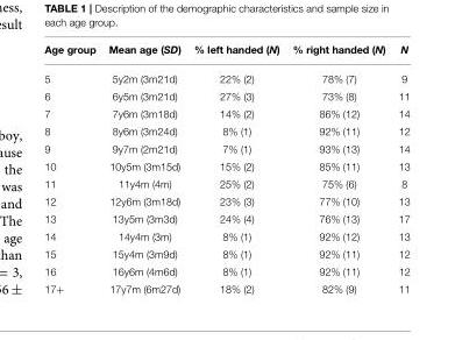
<table><thead><tr><td>Age group</td><td>Mean age (SD)</td><td>% left handed (N)</td><td>% right handed (N)</td><td>N</td></tr></thead><tbody><tr><td>5</td><td>5y2m (3m21d)</td><td>22% (2)</td><td>78% (7)</td><td>9</td></tr><tr><td>6</td><td>6y5m (3m21d)</td><td>27% (3)</td><td>73% (8)</td><td>11</td></tr><tr><td>7</td><td>7y6m (3m18d)</td><td>14% (2)</td><td>86% (12)</td><td>14</td></tr><tr><td>8</td><td>8y6m (3m24d)</td><td>8% (1)</td><td>92% (11)</td><td>12</td></tr><tr><td>9</td><td>9y7m (2m21d)</td><td>7% (1)</td><td>93% (13)</td><td>14</td></tr><tr><td>10</td><td>10y5m (3m15d)</td><td>15% (2)</td><td>85% (11)</td><td>13</td></tr><tr><td>11</td><td>11y4m (4m)</td><td>25% (2)</td><td>75% (6)</td><td>8</td></tr><tr><td>12</td><td>12y6m (3m18d)</td><td>23% (3)</td><td>77% (10)</td><td>13</td></tr><tr><td>13</td><td>13y5m (3m3d)</td><td>24% (4)</td><td>76% (13)</td><td>17</td></tr><tr><td>14</td><td>14y4m (3m)</td><td>8% (1)</td><td>92% (12)</td><td>13</td></tr><tr><td>15</td><td>15y4m (3m9d)</td><td>8% (1)</td><td>92% (11)</td><td>12</td></tr><tr><td>16</td><td>16y6m (4m6d)</td><td>8% (1)</td><td>92% (11)</td><td>12</td></tr><tr><td>17+</td><td>17y7m (6m27d)</td><td>18% (2)</td><td>82% (9)</td><td>11</td></tr></tbody></table>